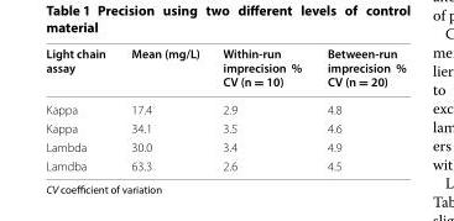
<table><thead><tr><td>Light chain assay</td><td>Mean (mg/L)</td><td>Within-run imprecision % CV (n = 10)</td><td>Between-run imprecision % CV (n = 20)</td></tr></thead><tbody><tr><td>Kappa</td><td>17.4</td><td>2.9</td><td>4.8</td></tr><tr><td>Kappa</td><td>34.1</td><td>3.5</td><td>4.6</td></tr><tr><td>Lambda</td><td>30.0</td><td>3.4</td><td>4.9</td></tr><tr><td>Lamdba</td><td>63.3</td><td>2.6</td><td>4.5</td></tr></tbody></table>